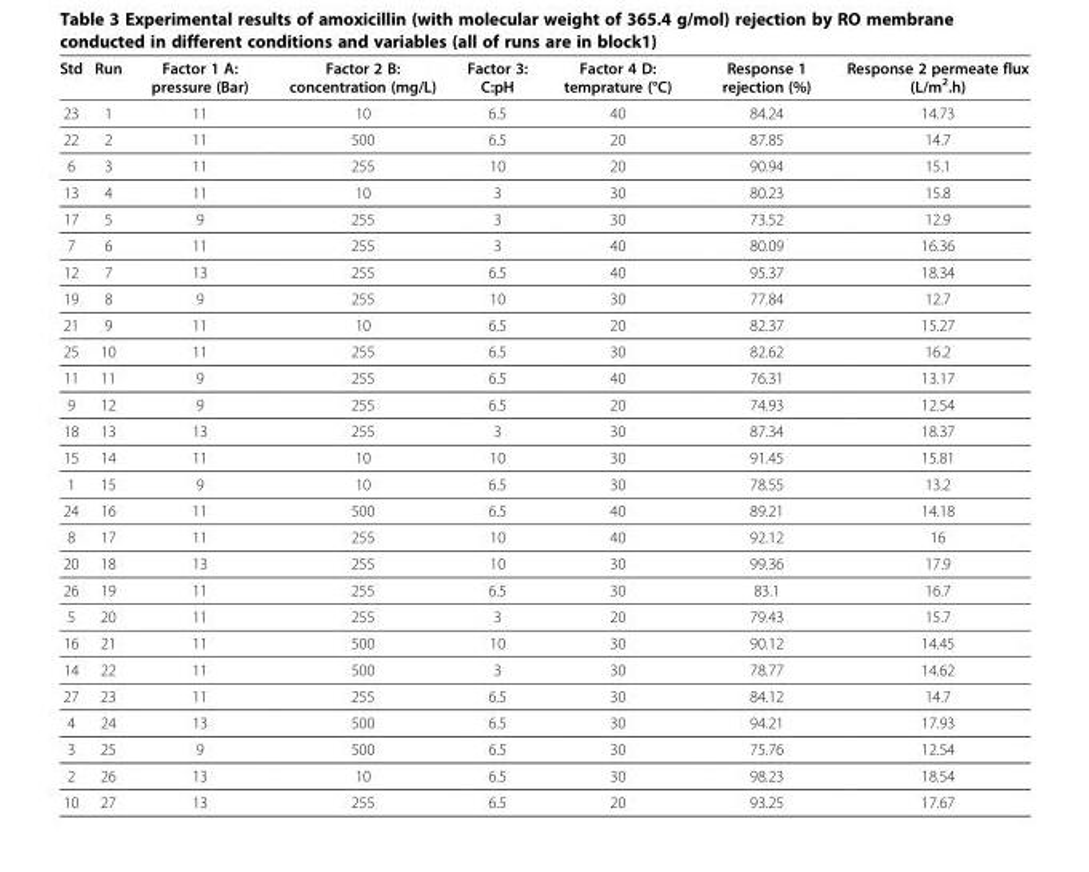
<table><thead><tr><td>Std</td><td>Run</td><td>Factor 1 A: pressure (Bar)</td><td>Factor 2 B: concentration (mg/L)</td><td>Factor 3: C:pH</td><td>Factor 4 D: temprature (°C)</td><td>Response 1 rejection (%)</td><td>Response 2 permeate flux (L/m<sup>2</sup>.h)</td></tr></thead><tbody><tr><td>23</td><td>1</td><td>11</td><td>10</td><td>6.5</td><td>40</td><td>84.24</td><td>14.73</td></tr><tr><td>22</td><td>2</td><td>11</td><td>500</td><td>6.5</td><td>20</td><td>87.85</td><td>14.7</td></tr><tr><td>6</td><td>3</td><td>11</td><td>255</td><td>10</td><td>20</td><td>90.94</td><td>15.1</td></tr><tr><td>13</td><td>4</td><td>11</td><td>10</td><td>3</td><td>30</td><td>80.23</td><td>15.8</td></tr><tr><td>17</td><td>5</td><td>9</td><td>255</td><td>3</td><td>30</td><td>73.52</td><td>12.9</td></tr><tr><td>7</td><td>6</td><td>11</td><td>255</td><td>3</td><td>40</td><td>80.09</td><td>16.36</td></tr><tr><td>12</td><td>7</td><td>13</td><td>255</td><td>6.5</td><td>40</td><td>95.37</td><td>18.34</td></tr><tr><td>19</td><td>8</td><td>9</td><td>255</td><td>10</td><td>30</td><td>77.84</td><td>12.7</td></tr><tr><td>21</td><td>9</td><td>11</td><td>10</td><td>6.5</td><td>20</td><td>82.37</td><td>15.27</td></tr><tr><td>25</td><td>10</td><td>11</td><td>255</td><td>6.5</td><td>30</td><td>82.62</td><td>16.2</td></tr><tr><td>11</td><td>11</td><td>9</td><td>255</td><td>6.5</td><td>40</td><td>76.31</td><td>13.17</td></tr><tr><td>9</td><td>12</td><td>9</td><td>255</td><td>6.5</td><td>20</td><td>74.93</td><td>12.54</td></tr><tr><td>18</td><td>13</td><td>13</td><td>255</td><td>3</td><td>30</td><td>87.34</td><td>18.37</td></tr><tr><td>15</td><td>14</td><td>11</td><td>10</td><td>10</td><td>30</td><td>91.45</td><td>15.81</td></tr><tr><td>1</td><td>15</td><td>9</td><td>10</td><td>6.5</td><td>30</td><td>78.55</td><td>13.2</td></tr><tr><td>24</td><td>16</td><td>11</td><td>500</td><td>6.5</td><td>40</td><td>89.21</td><td>14.18</td></tr><tr><td>8</td><td>17</td><td>11</td><td>255</td><td>10</td><td>40</td><td>92.12</td><td>16</td></tr><tr><td>20</td><td>18</td><td>13</td><td>255</td><td>10</td><td>30</td><td>99.36</td><td>17.9</td></tr><tr><td>26</td><td>19</td><td>11</td><td>255</td><td>6.5</td><td>30</td><td>83.1</td><td>16.7</td></tr><tr><td>5</td><td>20</td><td>11</td><td>255</td><td>3</td><td>20</td><td>79.43</td><td>15.7</td></tr><tr><td>16</td><td>21</td><td>11</td><td>500</td><td>10</td><td>30</td><td>90.12</td><td>14.45</td></tr><tr><td>14</td><td>22</td><td>11</td><td>500</td><td>3</td><td>30</td><td>78.77</td><td>14.62</td></tr><tr><td>27</td><td>23</td><td>11</td><td>255</td><td>6.5</td><td>30</td><td>84.12</td><td>14.7</td></tr><tr><td>4</td><td>24</td><td>13</td><td>500</td><td>6.5</td><td>30</td><td>94.21</td><td>17.93</td></tr><tr><td>3</td><td>25</td><td>9</td><td>500</td><td>6.5</td><td>30</td><td>75.76</td><td>12.54</td></tr><tr><td>2</td><td>26</td><td>13</td><td>10</td><td>6.5</td><td>30</td><td>98.23</td><td>18.54</td></tr><tr><td>10</td><td>27</td><td>13</td><td>255</td><td>6.5</td><td>20</td><td>93.25</td><td>17.67</td></tr></tbody></table>